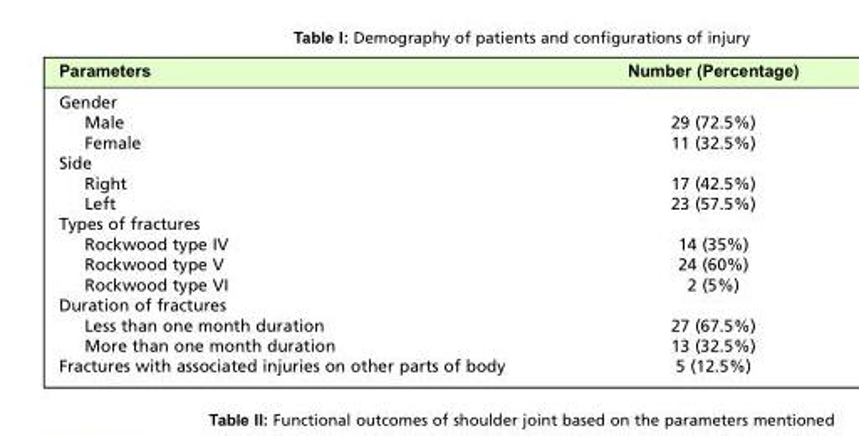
<table><thead><tr><td>Parameters</td><td>Number (Percentage)</td></tr></thead><tbody><tr><td colspan="2">Gender</td></tr><tr><td>Male</td><td>29 (72.5%)</td></tr><tr><td>Female</td><td>11 (32.5%)</td></tr><tr><td colspan="2">Side</td></tr><tr><td>Right</td><td>17 (42.5%)</td></tr><tr><td>Left</td><td>23 (57.5%)</td></tr><tr><td colspan="2">Types of fractures</td></tr><tr><td>Rockwood type IV</td><td>14 (35%)</td></tr><tr><td>Rockwood type V</td><td>24 (60%)</td></tr><tr><td>Rockwood type VI</td><td>2 (5%)</td></tr><tr><td colspan="2">Duration of fractures</td></tr><tr><td>Less than one month duration</td><td>27 (67.5%)</td></tr><tr><td>More than one month duration</td><td>13 (32.5%)</td></tr><tr><td>Fractures with associated injuries on other parts of body</td><td>5 (12.5%)</td></tr></tbody></table>